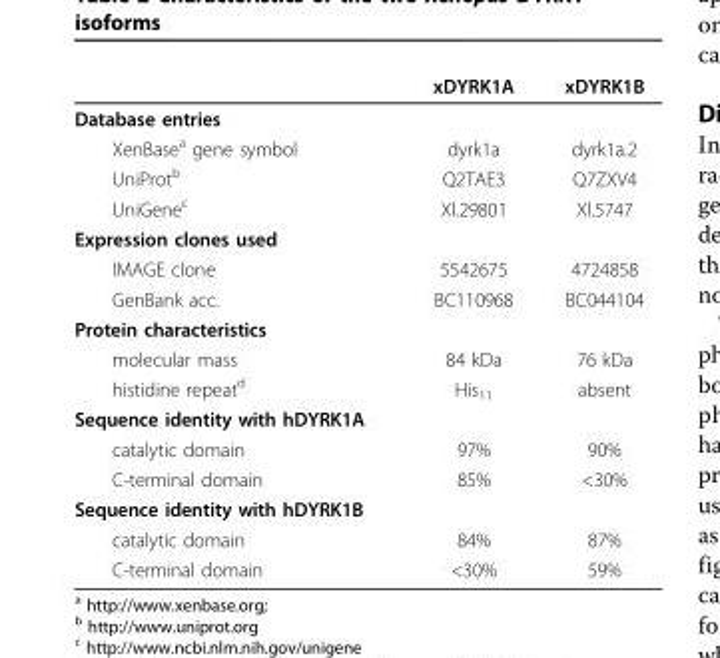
<table><thead><tr><td></td><td>xDYRK1A</td><td>xDYRK1B</td></tr></thead><tbody><tr><td colspan="3">Database entries</td></tr><tr><td>XenBase<sup>a</sup> gene symbol</td><td>dyrk1a</td><td>dyrk1a.2</td></tr><tr><td>UniProt<sup>b</sup></td><td>Q2TAE3</td><td>Q7ZXV4</td></tr><tr><td>UniGene<sup>c</sup></td><td>Xl.29801</td><td>Xl.5747</td></tr><tr><td colspan="3">Expression clones used</td></tr><tr><td>IMAGE clone</td><td>5542675</td><td>4724858</td></tr><tr><td>GenBank acc.</td><td>BC110968</td><td>BC044104</td></tr><tr><td colspan="3">Protein characteristics</td></tr><tr><td>molecular mass</td><td>84 kDa</td><td>76 kDa</td></tr><tr><td>histidine repeat<sup>d</sup></td><td>His<sub>11</sub></td><td>absent</td></tr><tr><td colspan="3">Sequence identity with hDYRK1A</td></tr><tr><td>catalytic domain</td><td>97%</td><td>90%</td></tr><tr><td>C-terminal domain</td><td>85%</td><td>&lt;30%</td></tr><tr><td colspan="3">Sequence identity with hDYRK1B</td></tr><tr><td>catalytic domain</td><td>84%</td><td>87%</td></tr><tr><td>C-terminal domain</td><td>&lt;30%</td><td>59%</td></tr></tbody></table>